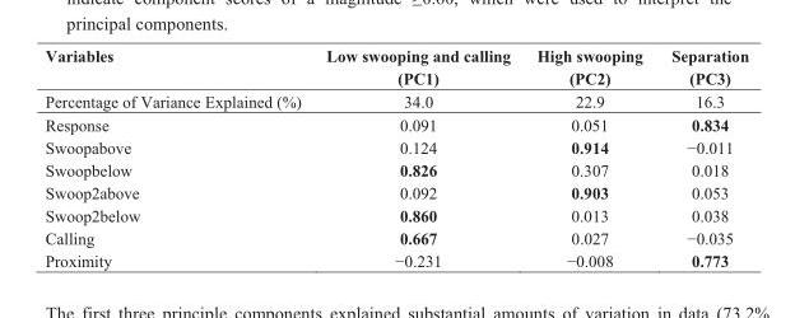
<table><thead><tr><td>Variables</td><td>Low swooping and calling (PC1)</td><td>High swooping (PC2)</td><td>Separation (PC3)</td></tr></thead><tbody><tr><td>Percentage of Variance Explained (%)</td><td>34.0</td><td>22.9</td><td>16.3</td></tr><tr><td>Response</td><td>0.091</td><td>0.051</td><td>0.834</td></tr><tr><td>Swoopabove</td><td>0.124</td><td>0.914</td><td>−0.011</td></tr><tr><td>Swoopbelow</td><td>0.826</td><td>0.307</td><td>0.018</td></tr><tr><td>Swoop2above</td><td>0.092</td><td>0.903</td><td>0.053</td></tr><tr><td>Swoop2below</td><td>0.860</td><td>0.013</td><td>0.038</td></tr><tr><td>Calling</td><td>0.667</td><td>0.027</td><td>−0.035</td></tr><tr><td>Proximity</td><td>−0.231</td><td>−0.008</td><td>0.773</td></tr></tbody></table>